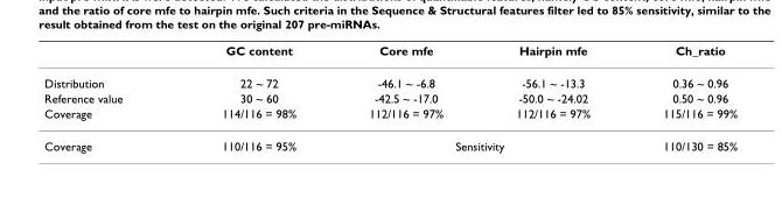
<table><thead><tr><td></td><td>GC content</td><td>Core mfe</td><td>Hairpin mfe</td><td>Ch_ratio</td></tr></thead><tbody><tr><td>Distribution</td><td>22 ~ 72</td><td>-46.1 ~ -6.8</td><td>-56.1 ~ -13.3</td><td>0.36 ~ 0.96</td></tr><tr><td>Reference value</td><td>30 ~ 60</td><td>-42.5 ~ -17.0</td><td>-50.0 ~ -24.02</td><td>0.50 ~ 0.96</td></tr><tr><td>Coverage</td><td>114/116 = 98%</td><td>112/116 = 97%</td><td>112/116 = 97%</td><td>115/116 = 99%</td></tr><tr><td>Coverage</td><td>110/116 = 95%</td><td colspan="2">Sensitivity</td><td>110/130 = 85%</td></tr></tbody></table>